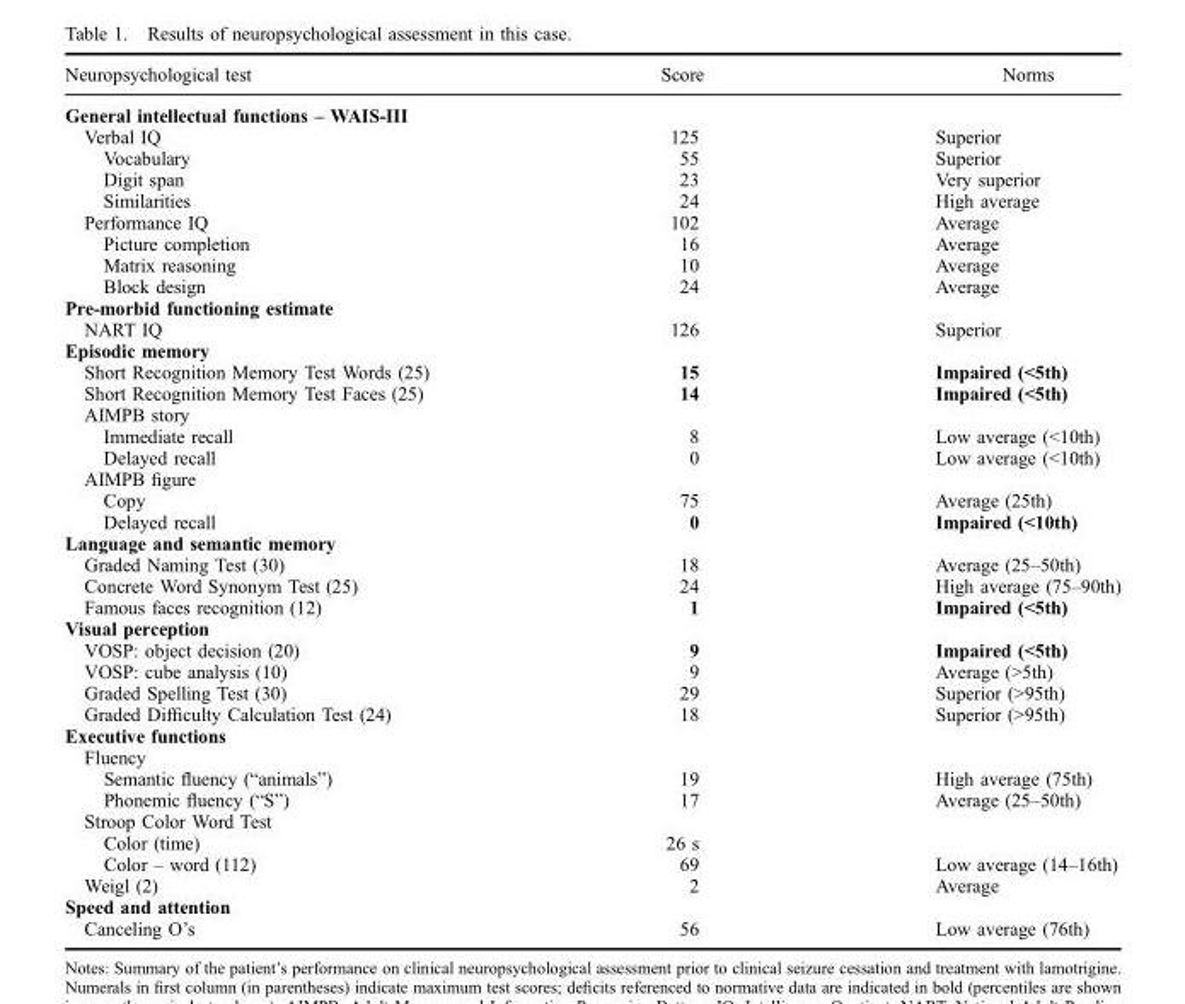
<table><thead><tr><td>Neuropsychological test</td><td>Score</td><td>Norms</td></tr></thead><tbody><tr><td colspan="3">General intellectual functions – WAIS-III</td></tr><tr><td>Verbal IQ</td><td>125</td><td>Superior</td></tr><tr><td>Vocabulary</td><td>55</td><td>Superior</td></tr><tr><td>Digit span</td><td>23</td><td>Very superior</td></tr><tr><td>Similarities</td><td>24</td><td>High average</td></tr><tr><td>Performance IQ</td><td>102</td><td>Average</td></tr><tr><td>Picture completion</td><td>16</td><td>Average</td></tr><tr><td>Matrix reasoning</td><td>10</td><td>Average</td></tr><tr><td>Block design</td><td>24</td><td>Average</td></tr><tr><td colspan="3">Pre-morbid functioning estimate</td></tr><tr><td>NART IQ</td><td>126</td><td>Superior</td></tr><tr><td colspan="3">Episodic memory</td></tr><tr><td>Short Recognition Memory Test Words (25)</td><td>15</td><td>Impaired (&lt;5th)</td></tr><tr><td>Short Recognition Memory Test Faces (25)</td><td>14</td><td>Impaired (&lt;5th)</td></tr><tr><td colspan="3">AIMPB story</td></tr><tr><td>Immediate recall</td><td>8</td><td>Low average (&lt;10th)</td></tr><tr><td>Delayed recall</td><td>0</td><td>Low average (&lt;10th)</td></tr><tr><td colspan="3">AIMPB figure</td></tr><tr><td>Copy</td><td>75</td><td>Average (25th)</td></tr><tr><td>Delayed recall</td><td>0</td><td>Impaired (&lt;10th)</td></tr><tr><td colspan="3">Language and semantic memory</td></tr><tr><td>Graded Naming Test (30)</td><td>18</td><td>Average (25–50th)</td></tr><tr><td>Concrete Word Synonym Test (25)</td><td>24</td><td>High average (75–90th)</td></tr><tr><td>Famous faces recognition (12)</td><td>1</td><td>Impaired (&lt;5th)</td></tr><tr><td colspan="3">Visual perception</td></tr><tr><td>VOSP: object decision (20)</td><td>9</td><td>Impaired (&lt;5th)</td></tr><tr><td>VOSP: cube analysis (10)</td><td>9</td><td>Average (&gt;5th)</td></tr><tr><td>Graded Spelling Test (30)</td><td>29</td><td>Superior (&gt;95th)</td></tr><tr><td>Graded Difficulty Calculation Test (24)</td><td>18</td><td>Superior (&gt;95th)</td></tr><tr><td colspan="3">Executive functions</td></tr><tr><td colspan="3">Fluency</td></tr><tr><td>Semantic fluency (“animals”)</td><td>19</td><td>High average (75th)</td></tr><tr><td>Phonemic fluency (“S”)</td><td>17</td><td>Average (25–50th)</td></tr><tr><td colspan="3">Stroop Color Word Test</td></tr><tr><td>Color (time)</td><td>26 s</td><td></td></tr><tr><td>Color – word (112)</td><td>69</td><td>Low average (14–16th)</td></tr><tr><td>Weigl (2)</td><td>2</td><td>Average</td></tr><tr><td colspan="3">Speed and attention</td></tr><tr><td>Canceling O’s</td><td>56</td><td>Low average (76th)</td></tr></tbody></table>